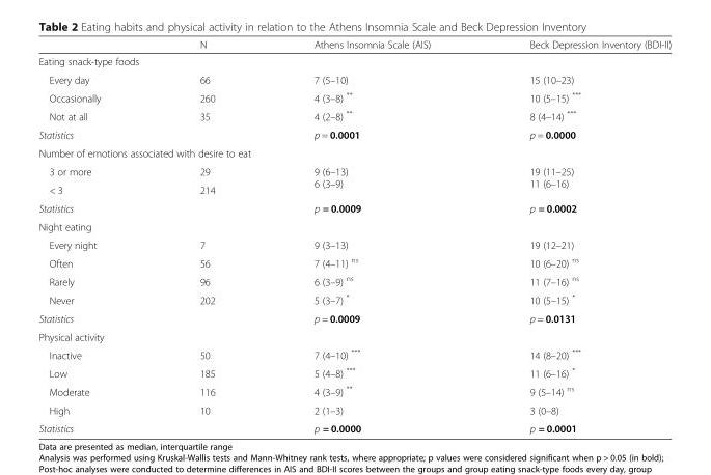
<table><thead><tr><td></td><td>N</td><td>Athens Insomnia Scale (AIS)</td><td>Beck Depression Inventory (BDI-II)</td></tr></thead><tbody><tr><td colspan="4">Eating snack-type foods</td></tr><tr><td>Every day</td><td>66</td><td>7 (5–10)</td><td>15 (10–23)</td></tr><tr><td>Occasionally</td><td>260</td><td>4 (3–8) **</td><td>10 (5–15) ***</td></tr><tr><td>Not at all</td><td>35</td><td>4 (2–8) **</td><td>8 (4–14) ***</td></tr><tr><td>Statistics</td><td></td><td>p = 0.0001</td><td>p = 0.0000</td></tr><tr><td colspan="4">Number of emotions associated with desire to eat</td></tr><tr><td>3 or more</td><td>29</td><td rowspan="2">9 (6–13) 6 (3–9)</td><td rowspan="2">19 (11–25) 11 (6–16)</td></tr><tr><td>&lt; 3</td><td>214</td></tr><tr><td>Statistics</td><td></td><td>p = 0.0009</td><td>p = 0.0002</td></tr><tr><td colspan="4">Night eating</td></tr><tr><td>Every night</td><td>7</td><td>9 (3–13)</td><td>19 (12–21)</td></tr><tr><td>Often</td><td>56</td><td>7 (4–11) <sup>ns</sup></td><td>10 (6–20) <sup>ns</sup></td></tr><tr><td>Rarely</td><td>96</td><td>6 (3–9) <sup>ns</sup></td><td>11 (7–16) <sup>ns</sup></td></tr><tr><td>Never</td><td>202</td><td>5 (3–7) *</td><td>10 (5–15) *</td></tr><tr><td>Statistics</td><td></td><td>p = 0.0009</td><td>p = 0.0131</td></tr><tr><td colspan="4">Physical activity</td></tr><tr><td>Inactive</td><td>50</td><td>7 (4–10) ***</td><td>14 (8–20) ***</td></tr><tr><td>Low</td><td>185</td><td>5 (4–8) ***</td><td>11 (6–16) *</td></tr><tr><td>Moderate</td><td>116</td><td>4 (3–9) **</td><td>9 (5–14) <sup>ns</sup></td></tr><tr><td>High</td><td>10</td><td>2 (1–3)</td><td>3 (0–8)</td></tr><tr><td>Statistics</td><td></td><td>p = 0.0000</td><td>p = 0.0001</td></tr></tbody></table>